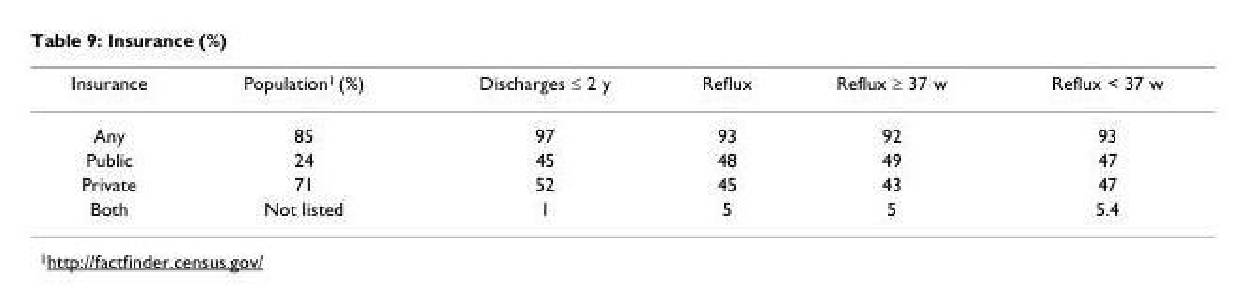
<table><thead><tr><td>Insurance</td><td>Population<sup>1</sup> (%)</td><td>Discharges ≤ 2 y</td><td>Reflux</td><td>Reflux ≥ 37 w</td><td>Reflux &lt; 37 w</td></tr></thead><tbody><tr><td>Any</td><td>85</td><td>97</td><td>93</td><td>92</td><td>93</td></tr><tr><td>Public</td><td>24</td><td>45</td><td>48</td><td>49</td><td>47</td></tr><tr><td>Private</td><td>71</td><td>52</td><td>45</td><td>43</td><td>47</td></tr><tr><td>Both</td><td>Not listed</td><td>1</td><td>5</td><td>5</td><td>5.4</td></tr></tbody></table>